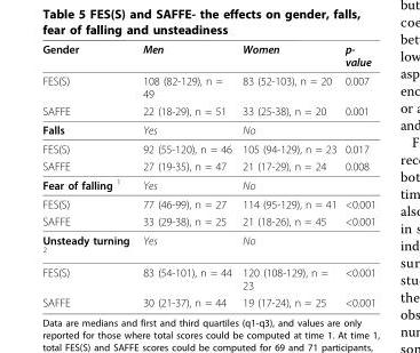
<table><thead><tr><td>Gender</td><td>Men</td><td>Women</td><td>p- value</td></tr></thead><tbody><tr><td>FES(S)</td><td>108 (82-129), n = 49</td><td>83 (52-103), n = 20</td><td>0.007</td></tr><tr><td>SAFFE</td><td>22 (18-29), n = 51</td><td>33 (25-38), n = 20</td><td>0.001</td></tr><tr><td>Falls</td><td>Yes</td><td>No</td><td></td></tr><tr><td>FES(S)</td><td>92 (55-120), n = 46</td><td>105 (94-129), n = 23</td><td>0.017</td></tr><tr><td>SAFFE</td><td>27 (19-35), n = 47</td><td>21 (17-29), n = 24</td><td>0.008</td></tr><tr><td>Fear of falling <sup>1</sup></td><td>Yes</td><td>No</td><td></td></tr><tr><td>FES(S)</td><td>77 (46-99), n = 27</td><td>114 (95-129), n = 41</td><td>&lt;0.001</td></tr><tr><td>SAFFE</td><td>33 (29-38), n = 25</td><td>21 (18-26), n = 45</td><td>&lt;0.001</td></tr><tr><td>Unsteady turning <sup>2</sup></td><td>Yes</td><td>No</td><td></td></tr><tr><td>FES(S)</td><td>83 (54-101), n = 44</td><td>120 (108-129), n = 23</td><td>&lt;0.001</td></tr><tr><td>SAFFE</td><td>30 (21-37), n = 44</td><td>19 (17-24), n = 25</td><td>&lt;0.001</td></tr></tbody></table>